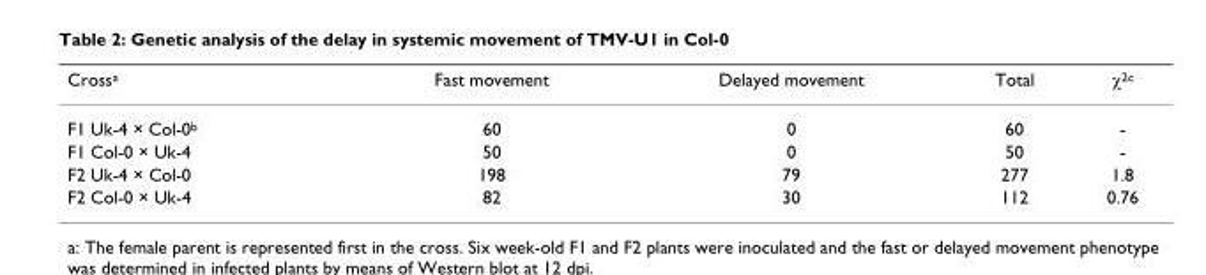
<table><thead><tr><td>Cross<sup>a</sup></td><td>Fast movement</td><td>Delayed movement</td><td>Total</td><td>χ<sup>2c</sup></td></tr></thead><tbody><tr><td>F1 Uk-4 × Col-0<sup>b</sup></td><td>60</td><td>0</td><td>60</td><td>-</td></tr><tr><td>F1 Col-0 × Uk-4</td><td>50</td><td>0</td><td>50</td><td>-</td></tr><tr><td>F2 Uk-4 × Col-0</td><td>198</td><td>79</td><td>277</td><td>1.8</td></tr><tr><td>F2 Col-0 × Uk-4</td><td>82</td><td>30</td><td>112</td><td>0.76</td></tr></tbody></table>